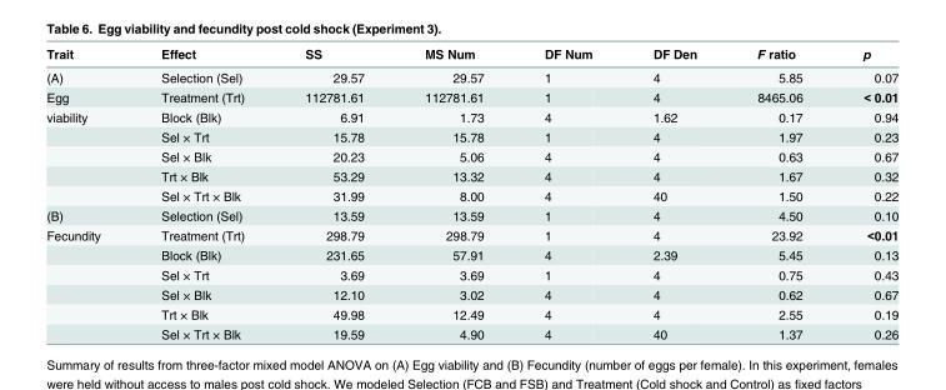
<table><thead><tr><td>Trait</td><td>Effect</td><td>SS</td><td>MS Num</td><td>DF Num</td><td>DF Den</td><td>F ratio</td><td>p</td></tr></thead><tbody><tr><td>(A)</td><td>Selection (Sel)</td><td>29.57</td><td>29.57</td><td>1</td><td>4</td><td>5.85</td><td>0.07</td></tr><tr><td>Egg</td><td>Treatment (Trt)</td><td>112781.61</td><td>112781.61</td><td>1</td><td>4</td><td>8465.06</td><td>&lt; 0.01</td></tr><tr><td rowspan="5">viability</td><td>Block (Blk)</td><td>6.91</td><td>1.73</td><td>4</td><td>1.62</td><td>0.17</td><td>0.94</td></tr><tr><td>Sel × Trt</td><td>15.78</td><td>15.78</td><td>1</td><td>4</td><td>1.97</td><td>0.23</td></tr><tr><td>Sel × Blk</td><td>20.23</td><td>5.06</td><td>4</td><td>4</td><td>0.63</td><td>0.67</td></tr><tr><td>Trt × Blk</td><td>53.29</td><td>13.32</td><td>4</td><td>4</td><td>1.67</td><td>0.32</td></tr><tr><td>Sel × Trt × Blk</td><td>31.99</td><td>8.00</td><td>4</td><td>40</td><td>1.50</td><td>0.22</td></tr><tr><td>(B)</td><td>Selection (Sel)</td><td>13.59</td><td>13.59</td><td>1</td><td>4</td><td>4.50</td><td>0.10</td></tr><tr><td rowspan="6">Fecundity</td><td>Treatment (Trt)</td><td>298.79</td><td>298.79</td><td>1</td><td>4</td><td>23.92</td><td>&lt;0.01</td></tr><tr><td>Block (Blk)</td><td>231.65</td><td>57.91</td><td>4</td><td>2.39</td><td>5.45</td><td>0.13</td></tr><tr><td>Sel × Trt</td><td>3.69</td><td>3.69</td><td>1</td><td>4</td><td>0.75</td><td>0.43</td></tr><tr><td>Sel × Blk</td><td>12.10</td><td>3.02</td><td>4</td><td>4</td><td>0.62</td><td>0.67</td></tr><tr><td>Trt × Blk</td><td>49.98</td><td>12.49</td><td>4</td><td>4</td><td>2.55</td><td>0.19</td></tr><tr><td>Sel × Trt × Blk</td><td>19.59</td><td>4.90</td><td>4</td><td>40</td><td>1.37</td><td>0.26</td></tr></tbody></table>